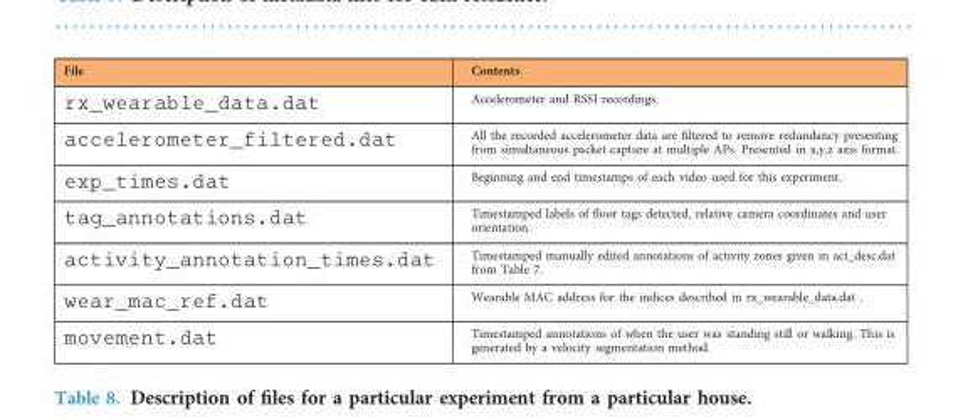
<table><thead><tr><td>File</td><td>Contents</td></tr></thead><tbody><tr><td>rx_wearable_data.dat</td><td>Accelerometer and RSSI recordings.</td></tr><tr><td>accelerometer_filtered.dat</td><td>All the recorded accelerometer data are filtered to remove redundancy presenting from simultaneous packet capture at multiple APs. Presented in x,y,z axis format.</td></tr><tr><td>exp_times.dat</td><td>Beginning and end timestamps of each video used for this experiment.</td></tr><tr><td>tag_annotations.dat</td><td>Timestamped labels of floor tags detected, relative camera coordinates and user orientation.</td></tr><tr><td>activity_annotation_times.dat</td><td>Timestamped manually edited annotations of activity zones given in act_desc.dat from Table 7.</td></tr><tr><td>wear_mac_ref.dat</td><td>Wearable MAC address for the indices described in rx_wearable_data.dat .</td></tr><tr><td>movement.dat</td><td>Timestamped annotations of when the user was standing still or walking. This is generated by a velocity segmentation method.</td></tr></tbody></table>